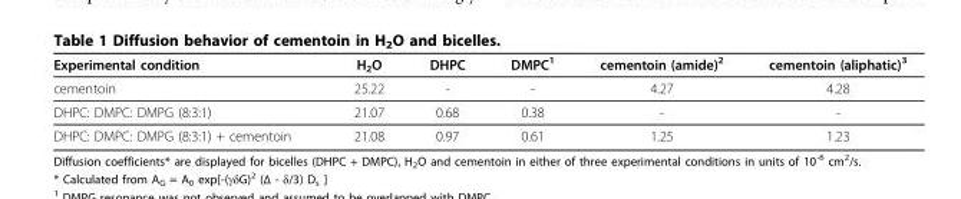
<table><thead><tr><td>Experimental condition</td><td>H<sub>2</sub>O</td><td>DHPC</td><td>DMPC<sup>1</sup></td><td>cementoin (amide)<sup>2</sup></td><td>cementoin (aliphatic)<sup>3</sup></td></tr></thead><tbody><tr><td>cementoin</td><td>25.22</td><td>-</td><td>-</td><td>4.27</td><td>4.28</td></tr><tr><td>DHPC: DMPC: DMPG (8:3:1)</td><td>21.07</td><td>0.68</td><td>0.38</td><td>-</td><td>-</td></tr><tr><td>DHPC: DMPC: DMPG (8:3:1) + cementoin</td><td>21.08</td><td>0.97</td><td>0.61</td><td>1.25</td><td>1.23</td></tr></tbody></table>